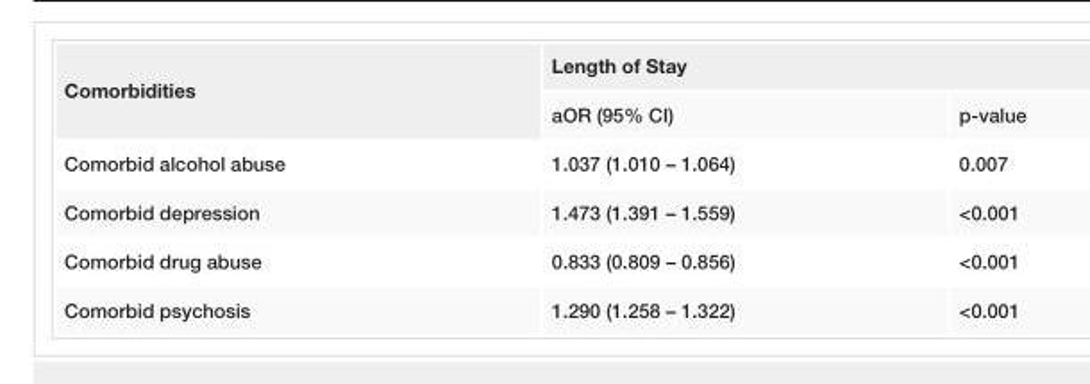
<table><tbody><tr><td rowspan="2">Comorbidities</td><td colspan="2">Length of Stay</td></tr><tr><td>aOR (95% CI)</td><td>p-value</td></tr><tr><td>Comorbid alcohol abuse</td><td>1.037 (1.010 – 1.064)</td><td>0.007</td></tr><tr><td>Comorbid depression</td><td>1.473 (1.391 – 1.559)</td><td>&lt;0.001</td></tr><tr><td>Comorbid drug abuse</td><td>0.833 (0.809 – 0.856)</td><td>&lt;0.001</td></tr><tr><td>Comorbid psychosis</td><td>1.290 (1.258 – 1.322)</td><td>&lt;0.001</td></tr></tbody></table>